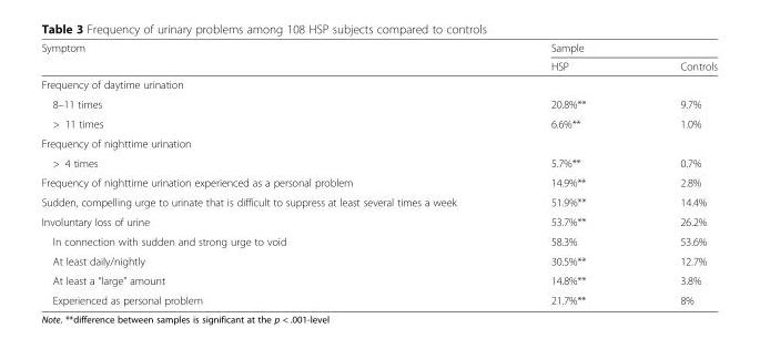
<table><thead><tr><td rowspan="2">Symptom</td><td colspan="2">Sample</td></tr><tr><td>HSP</td><td>Controls</td></tr></thead><tbody><tr><td colspan="3">Frequency of daytime urination</td></tr><tr><td>8–11 times</td><td>20.8%**</td><td>9.7%</td></tr><tr><td>&gt; 11 times</td><td>6.6%**</td><td>1.0%</td></tr><tr><td colspan="3">Frequency of nighttime urination</td></tr><tr><td>&gt; 4 times</td><td>5.7%**</td><td>0.7%</td></tr><tr><td>Frequency of nighttime urination experienced as a personal problem</td><td>14.9%**</td><td>2.8%</td></tr><tr><td>Sudden, compelling urge to urinate that is difficult to suppress at least several times a week</td><td>51.9%**</td><td>14.4%</td></tr><tr><td>Involuntary loss of urine</td><td>53.7%**</td><td>26.2%</td></tr><tr><td>In connection with sudden and strong urge to void</td><td>58.3%</td><td>53.6%</td></tr><tr><td>At least daily/nightly</td><td>30.5%**</td><td>12.7%</td></tr><tr><td>At least a “large” amount</td><td>14.8%**</td><td>3.8%</td></tr><tr><td>Experienced as personal problem</td><td>21.7%**</td><td>8%</td></tr></tbody></table>